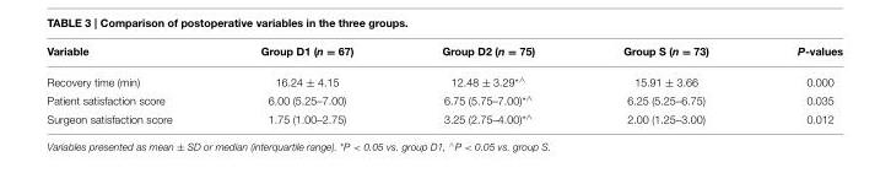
<table><thead><tr><td>Variable</td><td>Group D1 (n = 67)</td><td>Group D2 (n = 75)</td><td>Group S (n = 73)</td><td>P-values</td></tr></thead><tbody><tr><td>Recovery time (min)</td><td>16.24 ± 4.15</td><td>12.48 ± 3.29<sup>*∧</sup></td><td>15.91 ± 3.66</td><td>0.000</td></tr><tr><td>Patient satisfaction score</td><td>6.00 (5.25–7.00)</td><td>6.75 (5.75–7.00)<sup>*∧</sup></td><td>6.25 (5.25–6.75)</td><td>0.035</td></tr><tr><td>Surgeon satisfaction score</td><td>1.75 (1.00–2.75)</td><td>3.25 (2.75–4.00)<sup>*∧</sup></td><td>2.00 (1.25–3.00)</td><td>0.012</td></tr></tbody></table>